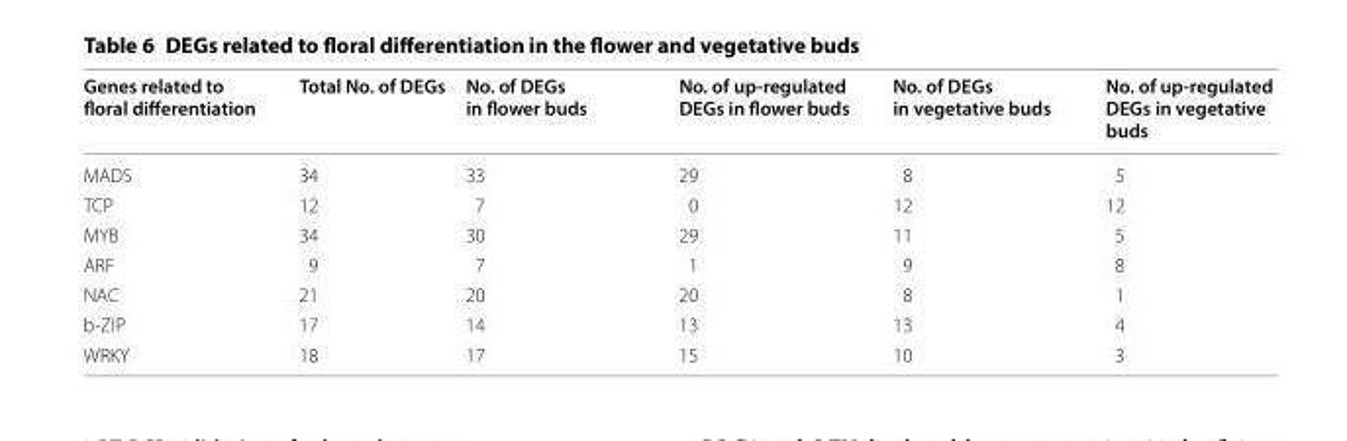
<table><thead><tr><td>Genes related to floral differentiation</td><td>Total No. of DEGs</td><td>No. of DEGs in flower buds</td><td>No. of up‑regulated DEGs in flower buds</td><td>No. of DEGs in vegetative buds</td><td>No. of up‑regulated DEGs in vegetative buds</td></tr></thead><tbody><tr><td>MADS</td><td>34</td><td>33</td><td>29</td><td>8</td><td>5</td></tr><tr><td>TCP</td><td>12</td><td>7</td><td>0</td><td>12</td><td>12</td></tr><tr><td>MYB</td><td>34</td><td>30</td><td>29</td><td>11</td><td>5</td></tr><tr><td>ARF</td><td>9</td><td>7</td><td>1</td><td>9</td><td>8</td></tr><tr><td>NAC</td><td>21</td><td>20</td><td>20</td><td>8</td><td>1</td></tr><tr><td>b-ZIP</td><td>17</td><td>14</td><td>13</td><td>13</td><td>4</td></tr><tr><td>WRKY</td><td>18</td><td>17</td><td>15</td><td>10</td><td>3</td></tr></tbody></table>